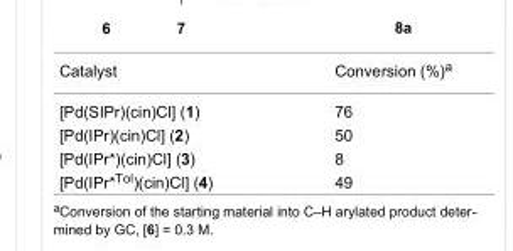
<table><tbody><tr><td>Catalyst</td><td>Conversion (%)<sup>a</sup></td></tr><tr><td>[Pd(SIPr)(cin)Cl] (1)</td><td>76</td></tr><tr><td>[Pd(IPr)(cin)Cl] (2)</td><td>50</td></tr><tr><td>[Pd(IPr*)(cin)Cl] (3)</td><td>8</td></tr><tr><td>[Pd(IPr*<sup>Tol</sup>)(cin)Cl] (4)</td><td>49</td></tr></tbody></table>